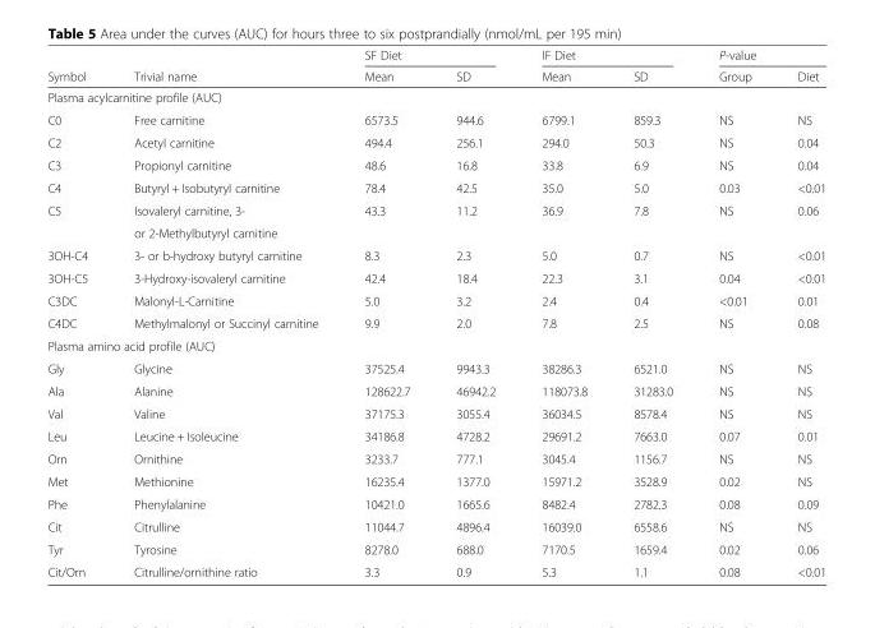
<table><thead><tr><td rowspan="2">Symbol</td><td rowspan="2">Trivial name</td><td colspan="2">SF Diet</td><td colspan="2">IF Diet</td><td colspan="2">P-value</td></tr><tr><td>Mean</td><td>SD</td><td>Mean</td><td>SD</td><td>Group</td><td>Diet</td></tr></thead><tbody><tr><td colspan="8">Plasma acylcarnitine profile (AUC)</td></tr><tr><td>C0</td><td>Free carnitine</td><td>6573.5</td><td>944.6</td><td>6799.1</td><td>859.3</td><td>NS</td><td>NS</td></tr><tr><td>C2</td><td>Acetyl carnitine</td><td>494.4</td><td>256.1</td><td>294.0</td><td>50.3</td><td>NS</td><td>0.04</td></tr><tr><td>C3</td><td>Propionyl carnitine</td><td>48.6</td><td>16.8</td><td>33.8</td><td>6.9</td><td>NS</td><td>0.04</td></tr><tr><td>C4</td><td>Butyryl + Isobutyryl carnitine</td><td>78.4</td><td>42.5</td><td>35.0</td><td>5.0</td><td>0.03</td><td>&lt;0.01</td></tr><tr><td rowspan="2">C5</td><td>Isovaleryl carnitine, 3-</td><td>43.3</td><td>11.2</td><td>36.9</td><td>7.8</td><td>NS</td><td>0.06</td></tr><tr><td colspan="7">or 2-Methylbutyryl carnitine</td></tr><tr><td>3OH-C4</td><td>3- or b-hydroxy butyryl carnitine</td><td>8.3</td><td>2.3</td><td>5.0</td><td>0.7</td><td>NS</td><td>&lt;0.01</td></tr><tr><td>3OH-C5</td><td>3-Hydroxy-isovaleryl carnitine</td><td>42.4</td><td>18.4</td><td>22.3</td><td>3.1</td><td>0.04</td><td>&lt;0.01</td></tr><tr><td>C3DC</td><td>Malonyl-L-Carnitine</td><td>5.0</td><td>3.2</td><td>2.4</td><td>0.4</td><td>&lt;0.01</td><td>0.01</td></tr><tr><td>C4DC</td><td>Methylmalonyl or Succinyl carnitine</td><td>9.9</td><td>2.0</td><td>7.8</td><td>2.5</td><td>NS</td><td>0.08</td></tr><tr><td colspan="8">Plasma amino acid profile (AUC)</td></tr><tr><td>Gly</td><td>Glycine</td><td>37525.4</td><td>9943.3</td><td>38286.3</td><td>6521.0</td><td>NS</td><td>NS</td></tr><tr><td>Ala</td><td>Alanine</td><td>128622.7</td><td>46942.2</td><td>118073.8</td><td>31283.0</td><td>NS</td><td>NS</td></tr><tr><td>Val</td><td>Valine</td><td>37175.3</td><td>3055.4</td><td>36034.5</td><td>8578.4</td><td>NS</td><td>NS</td></tr><tr><td>Leu</td><td>Leucine + Isoleucine</td><td>34186.8</td><td>4728.2</td><td>29691.2</td><td>7663.0</td><td>0.07</td><td>0.01</td></tr><tr><td>Orn</td><td>Ornithine</td><td>3233.7</td><td>777.1</td><td>3045.4</td><td>1156.7</td><td>NS</td><td>NS</td></tr><tr><td>Met</td><td>Methionine</td><td>16235.4</td><td>1377.0</td><td>15971.2</td><td>3528.9</td><td>0.02</td><td>NS</td></tr><tr><td>Phe</td><td>Phenylalanine</td><td>10421.0</td><td>1665.6</td><td>8482.4</td><td>2782.3</td><td>0.08</td><td>0.09</td></tr><tr><td>Cit</td><td>Citrulline</td><td>11044.7</td><td>4896.4</td><td>16039.0</td><td>6558.6</td><td>NS</td><td>NS</td></tr><tr><td>Tyr</td><td>Tyrosine</td><td>8278.0</td><td>688.0</td><td>7170.5</td><td>1659.4</td><td>0.02</td><td>0.06</td></tr><tr><td>Cit/Orn</td><td>Citrulline/ornithine ratio</td><td>3.3</td><td>0.9</td><td>5.3</td><td>1.1</td><td>0.08</td><td>&lt;0.01</td></tr></tbody></table>